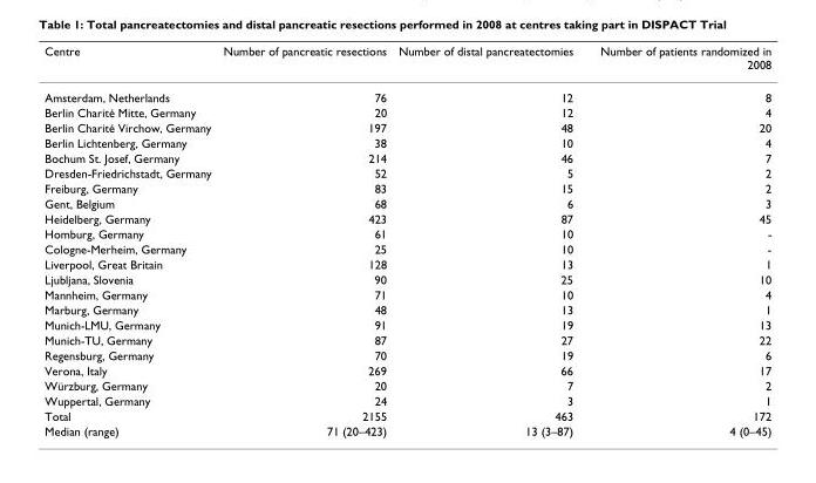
<table><thead><tr><td>Centre</td><td>Number of pancreatic resections</td><td>Number of distal pancreatectomies</td><td>Number of patients randomized in 2008</td></tr></thead><tbody><tr><td>Amsterdam, Netherlands</td><td>76</td><td>12</td><td>8</td></tr><tr><td>Berlin Charité Mitte, Germany</td><td>20</td><td>12</td><td>4</td></tr><tr><td>Berlin Charité Virchow, Germany</td><td>197</td><td>48</td><td>20</td></tr><tr><td>Berlin Lichtenberg, Germany</td><td>38</td><td>10</td><td>4</td></tr><tr><td>Bochum St. Josef, Germany</td><td>214</td><td>46</td><td>7</td></tr><tr><td>Dresden-Friedrichstadt, Germany</td><td>52</td><td>5</td><td>2</td></tr><tr><td>Freiburg, Germany</td><td>83</td><td>15</td><td>2</td></tr><tr><td>Gent, Belgium</td><td>68</td><td>6</td><td>3</td></tr><tr><td>Heidelberg, Germany</td><td>423</td><td>87</td><td>45</td></tr><tr><td>Homburg, Germany</td><td>61</td><td>10</td><td>-</td></tr><tr><td>Cologne-Merheim, Germany</td><td>25</td><td>10</td><td>-</td></tr><tr><td>Liverpool, Great Britain</td><td>128</td><td>13</td><td>1</td></tr><tr><td>Ljubljana, Slovenia</td><td>90</td><td>25</td><td>10</td></tr><tr><td>Mannheim, Germany</td><td>71</td><td>10</td><td>4</td></tr><tr><td>Marburg, Germany</td><td>48</td><td>13</td><td>1</td></tr><tr><td>Munich-LMU, Germany</td><td>91</td><td>19</td><td>13</td></tr><tr><td>Munich-TU, Germany</td><td>87</td><td>27</td><td>22</td></tr><tr><td>Regensburg, Germany</td><td>70</td><td>19</td><td>6</td></tr><tr><td>Verona, Italy</td><td>269</td><td>66</td><td>17</td></tr><tr><td>Würzburg, Germany</td><td>20</td><td>7</td><td>2</td></tr><tr><td>Wuppertal, Germany</td><td>24</td><td>3</td><td>1</td></tr><tr><td>Total</td><td>2155</td><td>463</td><td>172</td></tr><tr><td>Median (range)</td><td>71 (20–423)</td><td>13 (3–87)</td><td>4 (0–45)</td></tr></tbody></table>